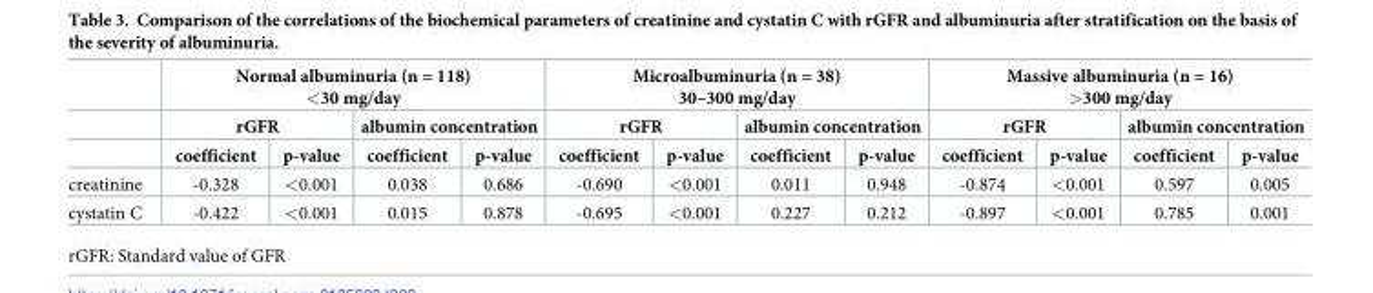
<table><thead><tr><td rowspan="3"></td><td colspan="4">Normal albuminuria (n = 118) &lt;30 mg/day</td><td colspan="4">Microalbuminuria (n = 38) 30–300 mg/day</td><td colspan="4">Massive albuminuria (n = 16) &gt;300 mg/day</td></tr><tr><td colspan="2">rGFR</td><td colspan="2">albumin concentration</td><td colspan="2">rGFR</td><td colspan="2">albumin concentration</td><td colspan="2">rGFR</td><td colspan="2">albumin concentration</td></tr><tr><td>coefficient</td><td>p-value</td><td>coefficient</td><td>p-value</td><td>coefficient</td><td>p-value</td><td>coefficient</td><td>p-value</td><td>coefficient</td><td>p-value</td><td>coefficient</td><td>p-value</td></tr></thead><tbody><tr><td>creatinine</td><td>-0.328</td><td>&lt;0.001</td><td>0.038</td><td>0.686</td><td>-0.690</td><td>&lt;0.001</td><td>0.011</td><td>0.948</td><td>-0.874</td><td>&lt;0.001</td><td>0.597</td><td>0.005</td></tr><tr><td>cystatin C</td><td>-0.422</td><td>&lt;0.001</td><td>0.015</td><td>0.878</td><td>-0.695</td><td>&lt;0.001</td><td>0.227</td><td>0.212</td><td>-0.897</td><td>&lt;0.001</td><td>0.785</td><td>0.001</td></tr></tbody></table>